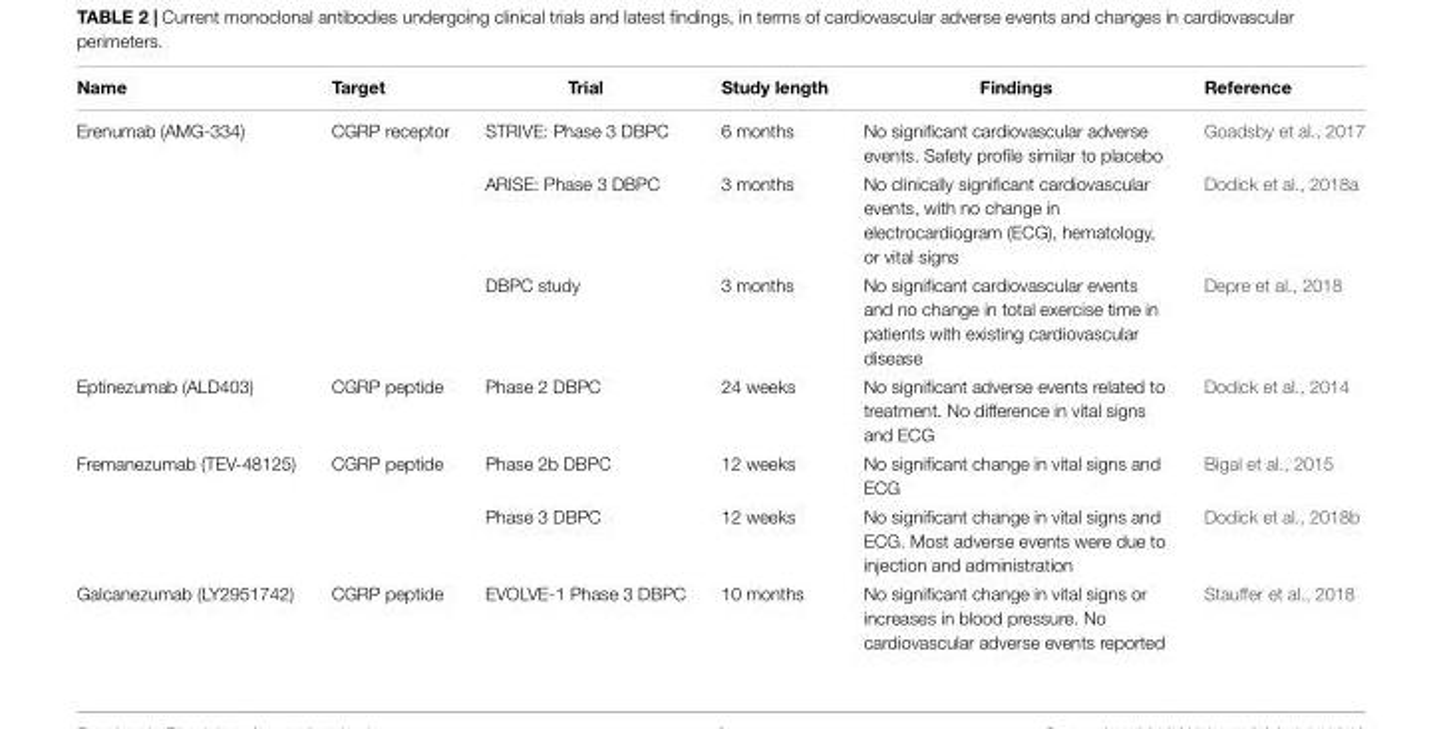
<table><thead><tr><td>Name</td><td>Target</td><td>Trial</td><td>Study length</td><td>Findings</td><td>Reference</td></tr></thead><tbody><tr><td rowspan="3">Erenumab (AMG-334)</td><td>CGRP receptor</td><td>STRIVE: Phase 3 DBPC</td><td>6 months</td><td>No significant cardiovascular adverse events. Safety profile similar to placebo</td><td>Goadsby et al., 2017</td></tr><tr><td></td><td>ARISE: Phase 3 DBPC</td><td>3 months</td><td>No clinically significant cardiovascular events, with no change in electrocardiogram (ECG), hematology, or vital signs</td><td>Dodick et al., 2018a</td></tr><tr><td></td><td>DBPC study</td><td>3 months</td><td>No significant cardiovascular events and no change in total exercise time in patients with existing cardiovascular disease</td><td>Depre et al., 2018</td></tr><tr><td>Eptinezumab (ALD403)</td><td>CGRP peptide</td><td>Phase 2 DBPC</td><td>24 weeks</td><td>No significant adverse events related to treatment. No difference in vital signs and ECG</td><td>Dodick et al., 2014</td></tr><tr><td rowspan="2">Fremanezumab (TEV-48125)</td><td>CGRP peptide</td><td>Phase 2b DBPC</td><td>12 weeks</td><td>No significant change in vital signs and ECG</td><td>Bigal et al., 2015</td></tr><tr><td></td><td>Phase 3 DBPC</td><td>12 weeks</td><td>No significant change in vital signs and ECG. Most adverse events were due to injection and administration</td><td>Dodick et al., 2018b</td></tr><tr><td>Galcanezumab (LY2951742)</td><td>CGRP peptide</td><td>EVOLVE-1 Phase 3 DBPC</td><td>10 months</td><td>No significant change in vital signs or increases in blood pressure. No cardiovascular adverse events reported</td><td>Stauffer et al., 2018</td></tr></tbody></table>